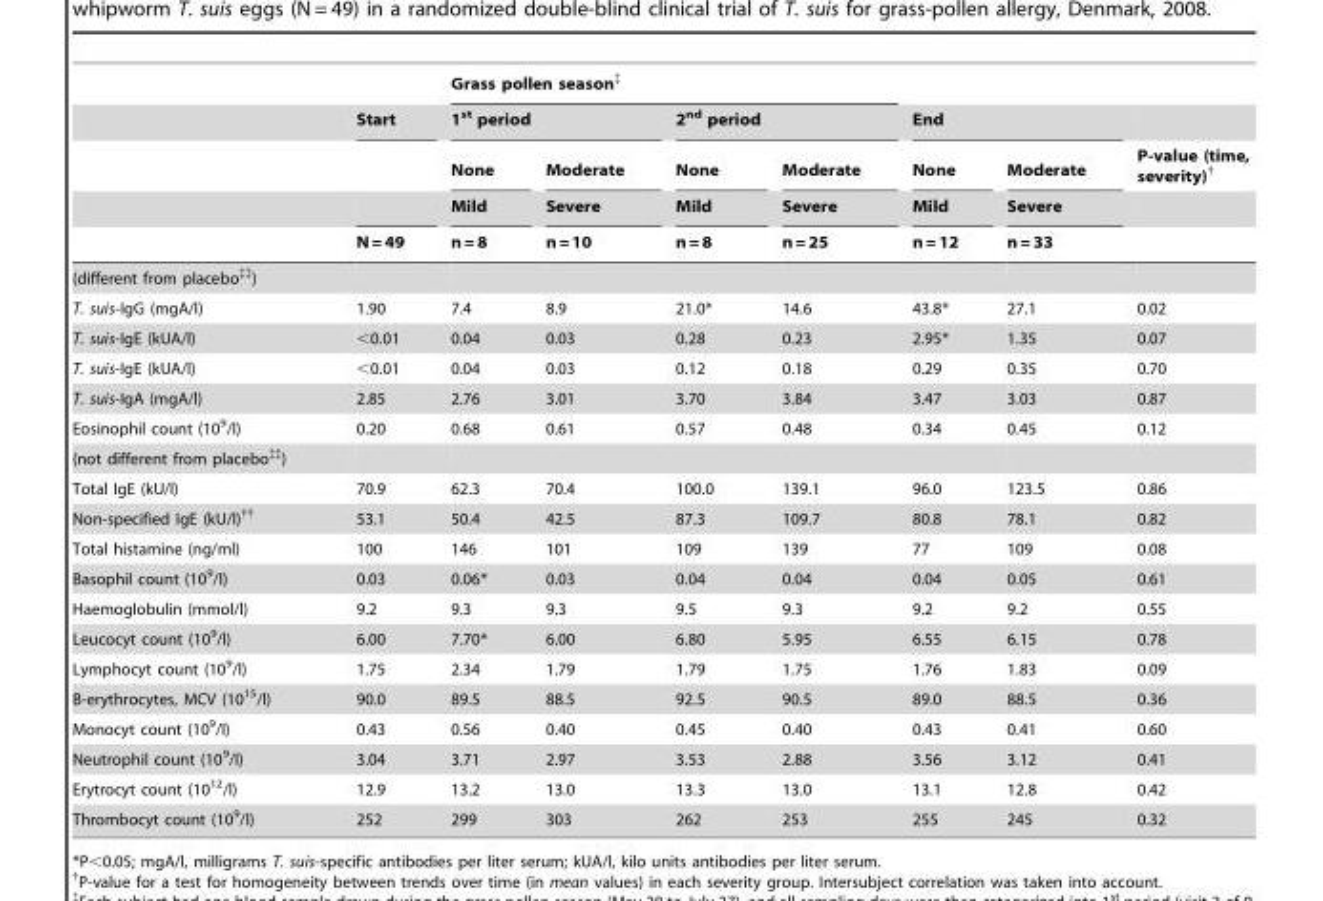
<table><thead><tr><td rowspan="5"></td><td rowspan="5">Start N = 49</td><td colspan="4">Grass pollen season‡</td><td></td><td></td><td rowspan="5">P-value (time, severity)†</td></tr><tr><td colspan="2">1<sup>st</sup> period</td><td colspan="2">2<sup>nd</sup> period</td><td colspan="2">End</td></tr><tr><td rowspan="3">None Mild n = 8</td><td rowspan="3">Moderate Severe n = 10</td><td rowspan="3">None Mild n = 8</td><td rowspan="3">Moderate Severe n = 25</td><td rowspan="3">None Mild n = 12</td><td rowspan="3">Moderate Severe n = 33</td></tr><tr></tr><tr></tr></thead><tbody><tr><td colspan="9">(different from placebo‡‡)</td></tr><tr><td>T. suis-IgG (mgA/l)</td><td>1.90</td><td>7.4</td><td>8.9</td><td>21.0*</td><td>14.6</td><td>43.8*</td><td>27.1</td><td>0.02</td></tr><tr><td>T. suis-IgE (kUA/l)</td><td>&lt;0.01</td><td>0.04</td><td>0.03</td><td>0.28</td><td>0.23</td><td>2.95*</td><td>1.35</td><td>0.07</td></tr><tr><td>T. suis-IgE (kUA/l)</td><td>&lt;0.01</td><td>0.04</td><td>0.03</td><td>0.12</td><td>0.18</td><td>0.29</td><td>0.35</td><td>0.70</td></tr><tr><td>T. suis-IgA (mgA/l)</td><td>2.85</td><td>2.76</td><td>3.01</td><td>3.70</td><td>3.84</td><td>3.47</td><td>3.03</td><td>0.87</td></tr><tr><td>Eosinophil count (10<sup>9</sup>/l)</td><td>0.20</td><td>0.68</td><td>0.61</td><td>0.57</td><td>0.48</td><td>0.34</td><td>0.45</td><td>0.12</td></tr><tr><td colspan="9">(not different from placebo‡‡)</td></tr><tr><td>Total IgE (kU/l)</td><td>70.9</td><td>62.3</td><td>70.4</td><td>100.0</td><td>139.1</td><td>96.0</td><td>123.5</td><td>0.86</td></tr><tr><td>Non-specified IgE (kU/l)††</td><td>53.1</td><td>50.4</td><td>42.5</td><td>87.3</td><td>109.7</td><td>80.8</td><td>78.1</td><td>0.82</td></tr><tr><td>Total histamine (ng/ml)</td><td>100</td><td>146</td><td>101</td><td>109</td><td>139</td><td>77</td><td>109</td><td>0.08</td></tr><tr><td>Basophil count (10<sup>9</sup>/l)</td><td>0.03</td><td>0.06*</td><td>0.03</td><td>0.04</td><td>0.04</td><td>0.04</td><td>0.05</td><td>0.61</td></tr><tr><td>Haemoglobulin (mmol/l)</td><td>9.2</td><td>9.3</td><td>9.3</td><td>9.5</td><td>9.3</td><td>9.2</td><td>9.2</td><td>0.55</td></tr><tr><td>Leucocyt count (10<sup>9</sup>/l)</td><td>6.00</td><td>7.70*</td><td>6.00</td><td>6.80</td><td>5.95</td><td>6.55</td><td>6.15</td><td>0.78</td></tr><tr><td>Lymphocyt count (10<sup>9</sup>/l)</td><td>1.75</td><td>2.34</td><td>1.79</td><td>1.79</td><td>1.75</td><td>1.76</td><td>1.83</td><td>0.09</td></tr><tr><td>B-erythrocytes, MCV (10<sup>15</sup>/l)</td><td>90.0</td><td>89.5</td><td>88.5</td><td>92.5</td><td>90.5</td><td>89.0</td><td>88.5</td><td>0.36</td></tr><tr><td>Monocyt count (10<sup>9</sup>/l)</td><td>0.43</td><td>0.56</td><td>0.40</td><td>0.45</td><td>0.40</td><td>0.43</td><td>0.41</td><td>0.60</td></tr><tr><td>Neutrophil count (10<sup>9</sup>/l)</td><td>3.04</td><td>3.71</td><td>2.97</td><td>3.53</td><td>2.88</td><td>3.56</td><td>3.12</td><td>0.41</td></tr><tr><td>Erytrocyt count (10<sup>12</sup>/l)</td><td>12.9</td><td>13.2</td><td>13.0</td><td>13.3</td><td>13.0</td><td>13.1</td><td>12.8</td><td>0.42</td></tr><tr><td>Thrombocyt count (10<sup>9</sup>/l)</td><td>252</td><td>299</td><td>303</td><td>262</td><td>253</td><td>255</td><td>245</td><td>0.32</td></tr></tbody></table>